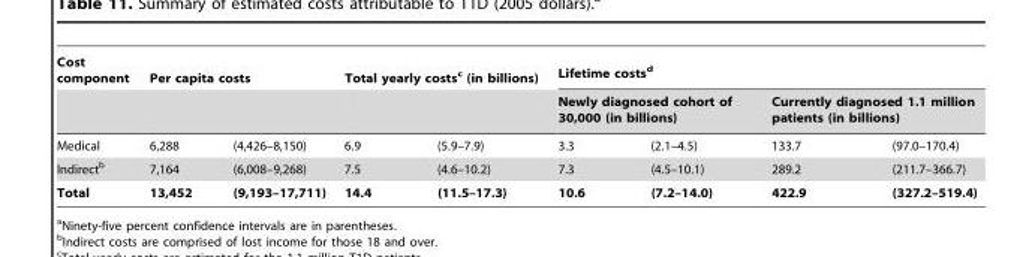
<table><thead><tr><td rowspan="3">Cost component Medical</td><td colspan="2">Per capita costs</td><td colspan="2">Total yearly costs<sup>c</sup> (in billions)</td><td colspan="4">Lifetime costs<sup>d</sup></td></tr><tr><td rowspan="2">6,288</td><td rowspan="2">(4,426–8,150)</td><td rowspan="2">6.9</td><td rowspan="2">(5.9–7.9)</td><td colspan="2">Newly diagnosed cohort of 30,000 (in billions)</td><td colspan="2">Currently diagnosed 1.1 million patients (in billions)</td></tr><tr><td>3.3</td><td>(2.1–4.5)</td><td>133.7</td><td>(97.0–170.4)</td></tr></thead><tbody><tr><td>Indirect<sup>b</sup></td><td>7,164</td><td>(6,008–9,268)</td><td>7.5</td><td>(4.6–10.2)</td><td>7.3</td><td>(4.5–10.1)</td><td>289.2</td><td>(211.7–366.7)</td></tr><tr><td>Total</td><td>13,452</td><td>(9,193–17,711)</td><td>14.4</td><td>(11.5–17.3)</td><td>10.6</td><td>(7.2–14.0)</td><td>422.9</td><td>(327.2–519.4)</td></tr></tbody></table>